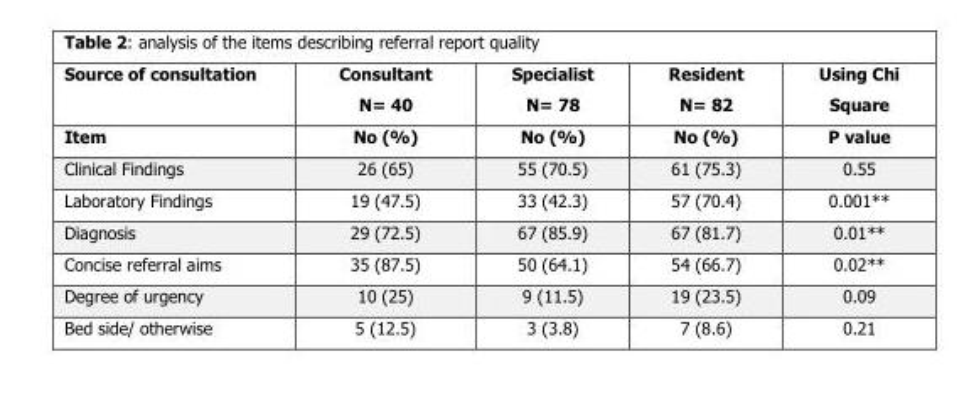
<table><thead><tr><td>Source of consultation</td><td>Consultant N= 40</td><td>Specialist N= 78</td><td>Resident N= 82</td><td>Using Chi Square</td></tr></thead><tbody><tr><td>Item</td><td>No (%)</td><td>No (%)</td><td>No (%)</td><td>P value</td></tr><tr><td>Clinical Findings</td><td>26 (65)</td><td>55 (70.5)</td><td>61 (75.3)</td><td>0.55</td></tr><tr><td>Laboratory Findings</td><td>19 (47.5)</td><td>33 (42.3)</td><td>57 (70.4)</td><td>0.001**</td></tr><tr><td>Diagnosis</td><td>29 (72.5)</td><td>67 (85.9)</td><td>67 (81.7)</td><td>0.01**</td></tr><tr><td>Concise referral aims</td><td>35 (87.5)</td><td>50 (64.1)</td><td>54 (66.7)</td><td>0.02**</td></tr><tr><td>Degree of urgency</td><td>10 (25)</td><td>9 (11.5)</td><td>19 (23.5)</td><td>0.09</td></tr><tr><td>Bed side/ otherwise</td><td>5 (12.5)</td><td>3 (3.8)</td><td>7 (8.6)</td><td>0.21</td></tr></tbody></table>